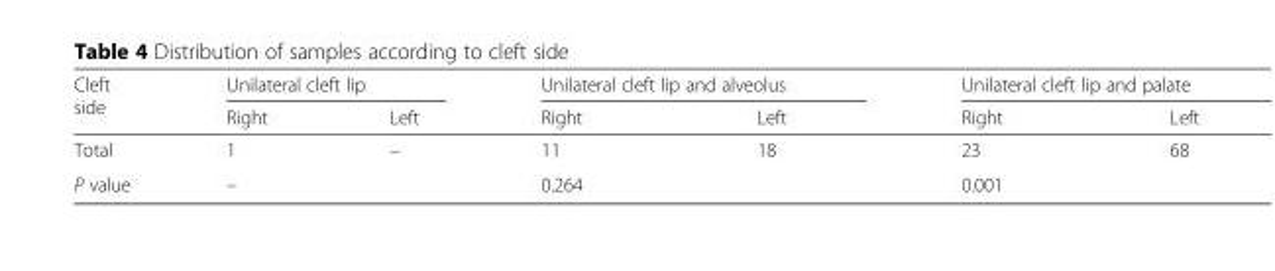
<table><thead><tr><td rowspan="2">Cleft side</td><td colspan="2">Unilateral cleft lip</td><td colspan="2">Unilateral cleft lip and alveolus</td><td colspan="2">Unilateral cleft lip and palate</td></tr><tr><td>Right</td><td>Left</td><td>Right</td><td>Left</td><td>Right</td><td>Left</td></tr></thead><tbody><tr><td>Total</td><td>1</td><td>–</td><td>11</td><td>18</td><td>23</td><td>68</td></tr><tr><td>P value</td><td colspan="2">–</td><td colspan="2">0.264</td><td colspan="2">0.001</td></tr></tbody></table>